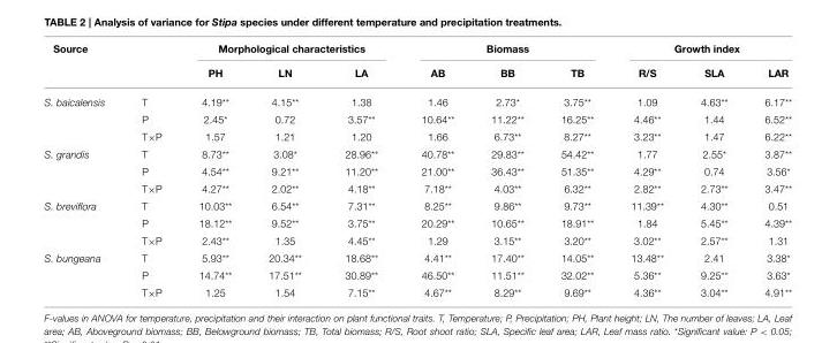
<table><thead><tr><td colspan="2">Source</td><td colspan="3">Morphological characteristics</td><td colspan="3">Biomass</td><td colspan="3">Growth index</td></tr><tr><td></td><td></td><td>PH</td><td>LN</td><td>LA</td><td>AB</td><td>BB</td><td>TB</td><td>R/S</td><td>SLA</td><td>LAR</td></tr></thead><tbody><tr><td rowspan="3">S. baicalensis</td><td>T</td><td>4.19**</td><td>4.15**</td><td>1.38</td><td>1.46</td><td>2.73*</td><td>3.75**</td><td>1.09</td><td>4.63**</td><td>6.17**</td></tr><tr><td>P</td><td>2.45*</td><td>0.72</td><td>3.57**</td><td>10.64**</td><td>11.22**</td><td>16.25**</td><td>4.46**</td><td>1.44</td><td>6.52**</td></tr><tr><td>T×P</td><td>1.57</td><td>1.21</td><td>1.20</td><td>1.66</td><td>6.73**</td><td>8.27**</td><td>3.23**</td><td>1.47</td><td>6.22**</td></tr><tr><td rowspan="3">S. grandis</td><td>T</td><td>8.73**</td><td>3.08*</td><td>28.96**</td><td>40.78**</td><td>29.83**</td><td>54.42**</td><td>1.77</td><td>2.55*</td><td>3.87**</td></tr><tr><td>P</td><td>4.54**</td><td>9.21**</td><td>11.20**</td><td>21.00**</td><td>36.43**</td><td>51.35**</td><td>4.29**</td><td>0.74</td><td>3.56*</td></tr><tr><td>T×P</td><td>4.27**</td><td>2.02**</td><td>4.18**</td><td>7.18**</td><td>4.03**</td><td>6.32**</td><td>2.82**</td><td>2.73**</td><td>3.47**</td></tr><tr><td rowspan="3">S. breviflora</td><td>T</td><td>10.03**</td><td>6.54**</td><td>7.31**</td><td>8.25**</td><td>9.86**</td><td>9.73**</td><td>11.39**</td><td>4.30**</td><td>0.51</td></tr><tr><td>P</td><td>18.12**</td><td>9.52**</td><td>3.75**</td><td>20.29**</td><td>10.65**</td><td>18.91**</td><td>1.84</td><td>5.45**</td><td>4.39**</td></tr><tr><td>T×P</td><td>2.43**</td><td>1.35</td><td>4.45**</td><td>1.29</td><td>3.15**</td><td>3.20**</td><td>3.02**</td><td>2.57**</td><td>1.31</td></tr><tr><td rowspan="3">S. bungeana</td><td>T</td><td>5.93**</td><td>20.34**</td><td>18.68**</td><td>4.41**</td><td>17.40**</td><td>14.05**</td><td>13.48**</td><td>2.41</td><td>3.38*</td></tr><tr><td>P</td><td>14.74**</td><td>17.51**</td><td>30.89**</td><td>46.50**</td><td>11.51**</td><td>32.02**</td><td>5.36**</td><td>9.25**</td><td>3.63*</td></tr><tr><td>T×P</td><td>1.25</td><td>1.54</td><td>7.15**</td><td>4.67**</td><td>8.29**</td><td>9.69**</td><td>4.36**</td><td>3.04**</td><td>4.91**</td></tr></tbody></table>